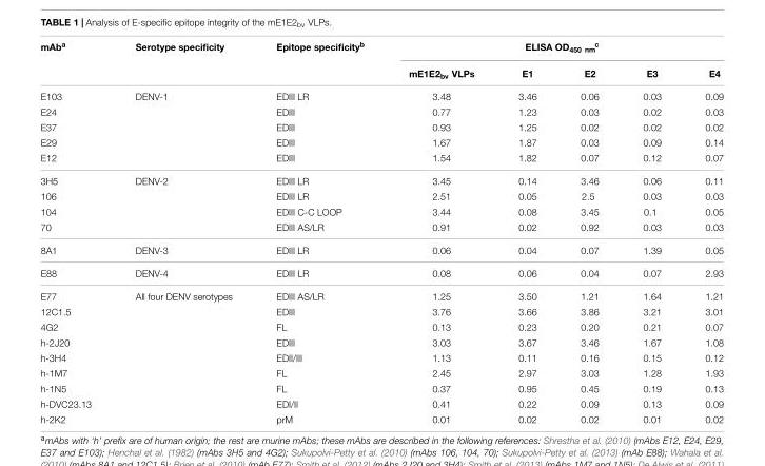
<table><thead><tr><td rowspan="2">mAb<sup>a</sup></td><td rowspan="2">Serotype specificity</td><td rowspan="2">Epitope specificity<sup>b</sup></td><td colspan="5">ELISA OD<sub>450 nm</sub><sup>c</sup></td></tr><tr><td>mE1E2<sub>bv</sub> VLPs</td><td>E1</td><td>E2</td><td>E3</td><td>E4</td></tr></thead><tbody><tr><td>E103</td><td>DENV-1</td><td>EDIII LR</td><td>3.48</td><td>3.46</td><td>0.06</td><td>0.03</td><td>0.09</td></tr><tr><td>E24</td><td></td><td>EDIII</td><td>0.77</td><td>1.23</td><td>0.03</td><td>0.02</td><td>0.03</td></tr><tr><td>E37</td><td></td><td>EDIII</td><td>0.93</td><td>1.25</td><td>0.02</td><td>0.02</td><td>0.02</td></tr><tr><td>E29</td><td></td><td>EDIII</td><td>1.67</td><td>1.87</td><td>0.03</td><td>0.09</td><td>0.14</td></tr><tr><td>E12</td><td></td><td>EDIII</td><td>1.54</td><td>1.82</td><td>0.07</td><td>0.12</td><td>0.07</td></tr><tr><td>3H5</td><td>DENV-2</td><td>EDIII LR</td><td>3.45</td><td>0.14</td><td>3.46</td><td>0.06</td><td>0.11</td></tr><tr><td>106</td><td></td><td>EDIII LR</td><td>2.51</td><td>0.05</td><td>2.5</td><td>0.03</td><td>0.03</td></tr><tr><td>104</td><td></td><td>EDIII C-C LOOP</td><td>3.44</td><td>0.08</td><td>3.45</td><td>0.1</td><td>0.05</td></tr><tr><td>70</td><td></td><td>EDIII AS/LR</td><td>0.91</td><td>0.02</td><td>0.92</td><td>0.03</td><td>0.03</td></tr><tr><td>8A1</td><td>DENV-3</td><td>EDIII LR</td><td>0.06</td><td>0.04</td><td>0.07</td><td>1.39</td><td>0.05</td></tr><tr><td>E88</td><td>DENV-4</td><td>EDIII LR</td><td>0.08</td><td>0.06</td><td>0.04</td><td>0.07</td><td>2.93</td></tr><tr><td>E77</td><td>All four DENV serotypes</td><td>EDIII AS/LR</td><td>1.25</td><td>3.50</td><td>1.21</td><td>1.64</td><td>1.21</td></tr><tr><td>12C1.5</td><td></td><td>EDIII</td><td>3.76</td><td>3.66</td><td>3.86</td><td>3.21</td><td>3.01</td></tr><tr><td>4G2</td><td></td><td>FL</td><td>0.13</td><td>0.23</td><td>0.20</td><td>0.21</td><td>0.07</td></tr><tr><td>h-2J20</td><td></td><td>EDIII</td><td>3.03</td><td>3.67</td><td>3.46</td><td>1.67</td><td>1.08</td></tr><tr><td>h-3H4</td><td></td><td>EDII/III</td><td>1.13</td><td>0.11</td><td>0.16</td><td>0.15</td><td>0.12</td></tr><tr><td>h-1M7</td><td></td><td>FL</td><td>2.45</td><td>2.97</td><td>3.03</td><td>1.28</td><td>1.93</td></tr><tr><td>h-1N5</td><td></td><td>FL</td><td>0.37</td><td>0.95</td><td>0.45</td><td>0.19</td><td>0.13</td></tr><tr><td>h-DVC23.13</td><td></td><td>EDI/II</td><td>0.41</td><td>0.22</td><td>0.09</td><td>0.13</td><td>0.09</td></tr><tr><td>h-2K2</td><td></td><td>prM</td><td>0.01</td><td>0.02</td><td>0.02</td><td>0.01</td><td>0.02</td></tr></tbody></table>